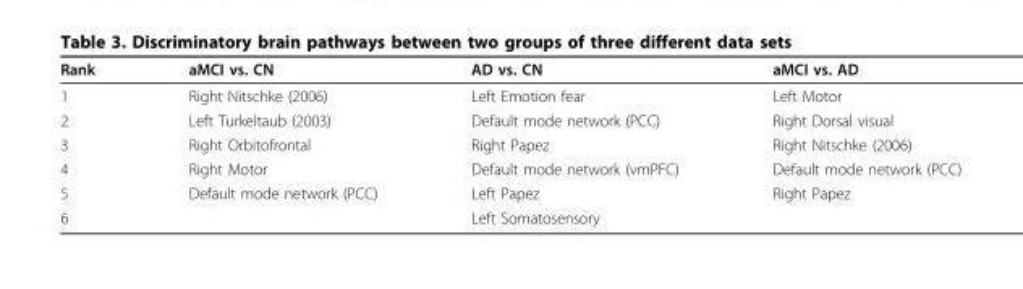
<table><thead><tr><td>Rank</td><td>aMCI vs. CN</td><td>AD vs. CN</td><td>aMCI vs. AD</td></tr></thead><tbody><tr><td>1</td><td>Right Nitschke (2006)</td><td>Left Emotion fear</td><td>Left Motor</td></tr><tr><td>2</td><td>Left Turkeltaub (2003)</td><td>Default mode network (PCC)</td><td>Right Dorsal visual</td></tr><tr><td>3</td><td>Right Orbitofrontal</td><td>Right Papez</td><td>Right Nitschke (2006)</td></tr><tr><td>4</td><td>Right Motor</td><td>Default mode network (vmPFC)</td><td>Default mode network (PCC)</td></tr><tr><td>5</td><td>Default mode network (PCC)</td><td>Left Papez</td><td>Right Papez</td></tr><tr><td>6</td><td></td><td>Left Somatosensory</td><td></td></tr></tbody></table>